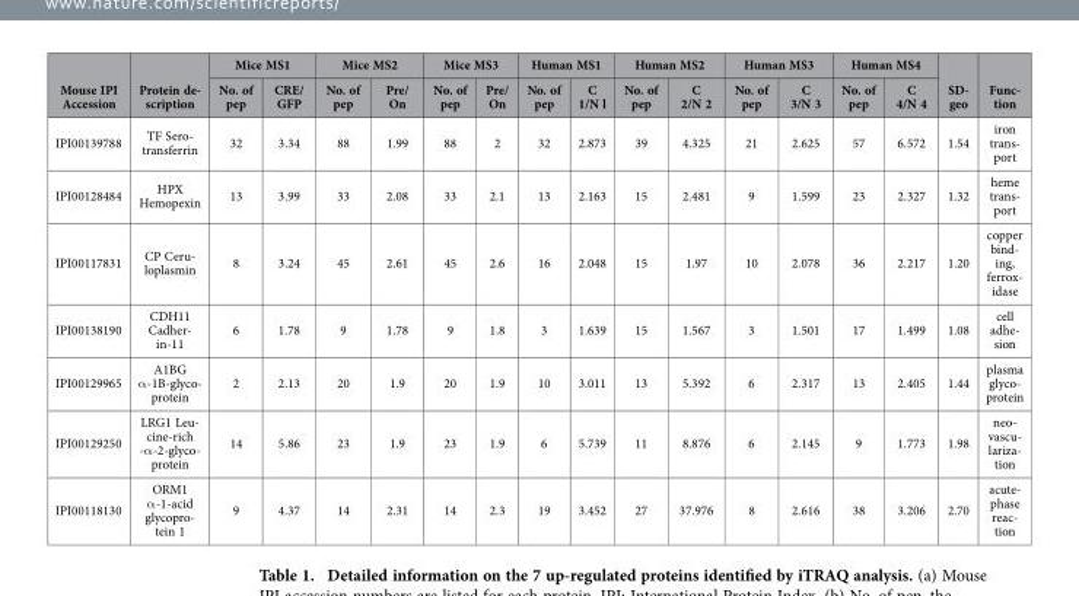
<table><thead><tr><td rowspan="2">Mouse IPI Accession</td><td rowspan="2">Protein de- scription</td><td colspan="2">Mice MS1</td><td colspan="2">Mice MS2</td><td colspan="2">Mice MS3</td><td colspan="2">Human MS1</td><td colspan="2">Human MS2</td><td colspan="2">Human MS3</td><td colspan="2">Human MS4</td><td rowspan="2">SD- geo</td><td rowspan="2">Func- tion</td></tr><tr><td>No. of pep</td><td>CRE/ GFP</td><td>No. of pep</td><td>Pre/ On</td><td>No. of pep</td><td>Pre/ On</td><td>No. of pep</td><td>C 1/N l</td><td>No. of pep</td><td>C 2/N 2</td><td>No. of pep</td><td>C 3/N 3</td><td>No. of pep</td><td>C 4/N 4</td></tr></thead><tbody><tr><td>IPI00139788</td><td>TF Sero- transferrin</td><td>32</td><td>3.34</td><td>88</td><td>1.99</td><td>88</td><td>2</td><td>32</td><td>2.873</td><td>39</td><td>4.325</td><td>21</td><td>2.625</td><td>57</td><td>6.572</td><td>1.54</td><td>iron trans- port</td></tr><tr><td>IPI00128484</td><td>HPX Hemopexin</td><td>13</td><td>3.99</td><td>33</td><td>2.08</td><td>33</td><td>2.1</td><td>13</td><td>2.163</td><td>15</td><td>2.481</td><td>9</td><td>1.599</td><td>23</td><td>2.327</td><td>1.32</td><td>heme trans- port</td></tr><tr><td>IPI00117831</td><td>CP Ceru- loplasmin</td><td>8</td><td>3.24</td><td>45</td><td>2.61</td><td>45</td><td>2.6</td><td>16</td><td>2.048</td><td>15</td><td>1.97</td><td>10</td><td>2.078</td><td>36</td><td>2.217</td><td>1.20</td><td>copper bind- ing, ferrox- idase</td></tr><tr><td>IPI00138190</td><td>CDH11 Cadher- in-11</td><td>6</td><td>1.78</td><td>9</td><td>1.78</td><td>9</td><td>1.8</td><td>3</td><td>1.639</td><td>15</td><td>1.567</td><td>3</td><td>1.501</td><td>17</td><td>1.499</td><td>1.08</td><td>cell adhe- sion</td></tr><tr><td>IPI00129965</td><td>A1BG α -1B-glyco- protein</td><td>2</td><td>2.13</td><td>20</td><td>1.9</td><td>20</td><td>1.9</td><td>10</td><td>3.011</td><td>13</td><td>5.392</td><td>6</td><td>2.317</td><td>13</td><td>2.405</td><td>1.44</td><td>plasma glyco- protein</td></tr><tr><td>IPI00129250</td><td>LRG1 Leu- cine-rich -α -2-glyco- protein</td><td>14</td><td>5.86</td><td>23</td><td>1.9</td><td>23</td><td>1.9</td><td>6</td><td>5.739</td><td>11</td><td>8.876</td><td>6</td><td>2.145</td><td>9</td><td>1.773</td><td>1.98</td><td>neo- vascu- lariza- tion</td></tr><tr><td>IPI00118130</td><td>ORM1 α -1-acid glycopro- tein 1</td><td>9</td><td>4.37</td><td>14</td><td>2.31</td><td>14</td><td>2.3</td><td>19</td><td>3.452</td><td>27</td><td>37.976</td><td>8</td><td>2.616</td><td>38</td><td>3.206</td><td>2.70</td><td>acute- phase reac- tion</td></tr></tbody></table>